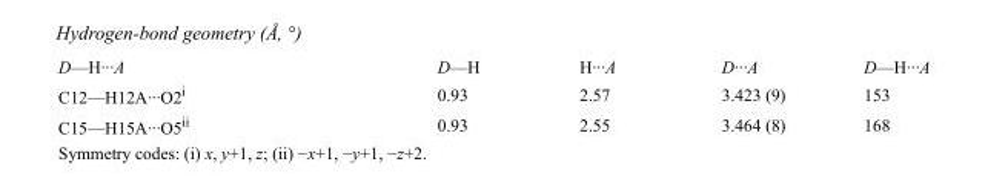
<table><tbody><tr><td>D—H···A</td><td>D—H</td><td>H···A</td><td>D···A</td><td>D—H···A</td></tr><tr><td>C12—H12A···O2<sup>i</sup></td><td>0.93</td><td>2.57</td><td>3.423 (9)</td><td>153</td></tr><tr><td>C15—H15A···O5<sup>ii</sup></td><td>0.93</td><td>2.55</td><td>3.464 (8)</td><td>168</td></tr></tbody></table>